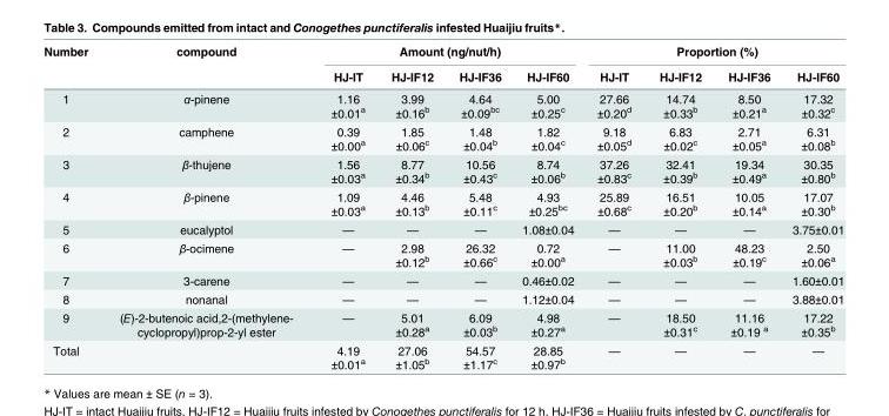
<table><thead><tr><td rowspan="2">Number</td><td rowspan="2">compound</td><td colspan="4">Amount (ng/nut/h)</td><td colspan="4">Proportion (%)</td></tr><tr><td>HJ-IT</td><td>HJ-IF12</td><td>HJ-IF36</td><td>HJ-IF60</td><td>HJ-IT</td><td>HJ-IF12</td><td>HJ-IF36</td><td>HJ-IF60</td></tr></thead><tbody><tr><td>1</td><td>α-pinene</td><td>1.16 ±0.01<sup>a</sup></td><td>3.99 ±0.16<sup>b</sup></td><td>4.64 ±0.09<sup>bc</sup></td><td>5.00 ±0.25<sup>c</sup></td><td>27.66 ±0.20<sup>d</sup></td><td>14.74 ±0.33<sup>b</sup></td><td>8.50 ±0.21<sup>a</sup></td><td>17.32 ±0.32<sup>c</sup></td></tr><tr><td>2</td><td>camphene</td><td>0.39 ±0.00<sup>a</sup></td><td>1.85 ±0.06<sup>c</sup></td><td>1.48 ±0.04<sup>b</sup></td><td>1.82 ±0.04<sup>c</sup></td><td>9.18 ±0.05<sup>d</sup></td><td>6.83 ±0.02<sup>c</sup></td><td>2.71 ±0.05<sup>a</sup></td><td>6.31 ±0.08<sup>b</sup></td></tr><tr><td>3</td><td>β-thujene</td><td>1.56 ±0.03<sup>a</sup></td><td>8.77 ±0.34<sup>b</sup></td><td>10.56 ±0.43<sup>c</sup></td><td>8.74 ±0.06<sup>b</sup></td><td>37.26 ±0.83<sup>c</sup></td><td>32.41 ±0.39<sup>b</sup></td><td>19.34 ±0.49<sup>a</sup></td><td>30.35 ±0.80<sup>b</sup></td></tr><tr><td>4</td><td>β-pinene</td><td>1.09 ±0.03<sup>a</sup></td><td>4.46 ±0.13<sup>b</sup></td><td>5.48 ±0.11<sup>c</sup></td><td>4.93 ±0.25<sup>bc</sup></td><td>25.89 ±0.68<sup>c</sup></td><td>16.51 ±0.20<sup>b</sup></td><td>10.05 ±0.14<sup>a</sup></td><td>17.07 ±0.30<sup>b</sup></td></tr><tr><td>5</td><td>eucalyptol</td><td>—</td><td>—</td><td>—</td><td>1.08±0.04</td><td>—</td><td>—</td><td>—</td><td>3.75±0.01</td></tr><tr><td>6</td><td>β-ocimene</td><td>—</td><td>2.98 ±0.12<sup>b</sup></td><td>26.32 ±0.66<sup>c</sup></td><td>0.72 ±0.00<sup>a</sup></td><td>—</td><td>11.00 ±0.03<sup>b</sup></td><td>48.23 ±0.19<sup>c</sup></td><td>2.50 ±0.06<sup>a</sup></td></tr><tr><td>7</td><td>3-carene</td><td>—</td><td>—</td><td>—</td><td>0.46±0.02</td><td>—</td><td>—</td><td>—</td><td>1.60±0.01</td></tr><tr><td>8</td><td>nonanal</td><td>—</td><td>—</td><td>—</td><td>1.12±0.04</td><td>—</td><td>—</td><td>—</td><td>3.88±0.01</td></tr><tr><td>9</td><td>(E)-2-butenoic acid,2-(methylene- cyclopropyl)prop-2-yl ester</td><td>—</td><td>5.01 ±0.28<sup>a</sup></td><td>6.09 ±0.03<sup>b</sup></td><td>4.98 ±0.27<sup>a</sup></td><td>—</td><td>18.50 ±0.31<sup>c</sup></td><td>11.16 ±0.19 <sup>a</sup></td><td>17.22 ±0.35<sup>b</sup></td></tr><tr><td>Total</td><td></td><td>4.19 ±0.01<sup>a</sup></td><td>27.06 ±1.05<sup>b</sup></td><td>54.57 ±1.17<sup>c</sup></td><td>28.85 ±0.97<sup>b</sup></td><td>—</td><td>—</td><td>—</td><td>—</td></tr></tbody></table>